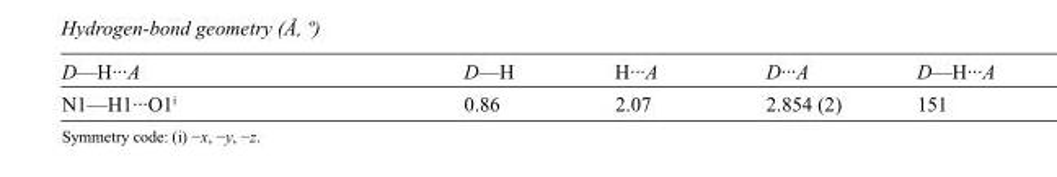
<table><tbody><tr><td>D—H···A</td><td>D—H</td><td>H···A</td><td>D···A</td><td>D—H···A</td></tr><tr><td>N1—H1···O1<sup>i</sup></td><td>0.86</td><td>2.07</td><td>2.854 (2)</td><td>151</td></tr></tbody></table>